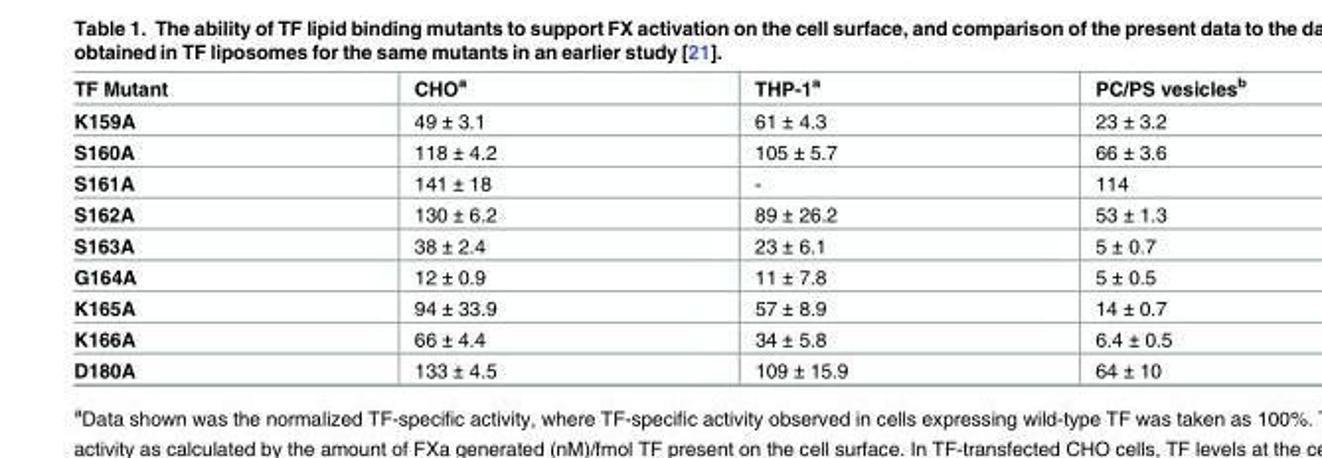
<table><thead><tr><td>TF Mutant</td><td>CHO<sup>a</sup></td><td>THP-1<sup>a</sup></td><td>PC/PS vesicles<sup>b</sup></td></tr></thead><tbody><tr><td>K159A</td><td>49 ± 3.1</td><td>61 ± 4.3</td><td>23 ± 3.2</td></tr><tr><td>S160A</td><td>118 ± 4.2</td><td>105 ± 5.7</td><td>66 ± 3.6</td></tr><tr><td>S161A</td><td>141 ± 18</td><td>-</td><td>114</td></tr><tr><td>S162A</td><td>130 ± 6.2</td><td>89 ± 26.2</td><td>53 ± 1.3</td></tr><tr><td>S163A</td><td>38 ± 2.4</td><td>23 ± 6.1</td><td>5 ± 0.7</td></tr><tr><td>G164A</td><td>12 ± 0.9</td><td>11 ± 7.8</td><td>5 ± 0.5</td></tr><tr><td>K165A</td><td>94 ± 33.9</td><td>57 ± 8.9</td><td>14 ± 0.7</td></tr><tr><td>K166A</td><td>66 ± 4.4</td><td>34 ± 5.8</td><td>6.4 ± 0.5</td></tr><tr><td>D180A</td><td>133 ± 4.5</td><td>109 ± 15.9</td><td>64 ± 10</td></tr></tbody></table>